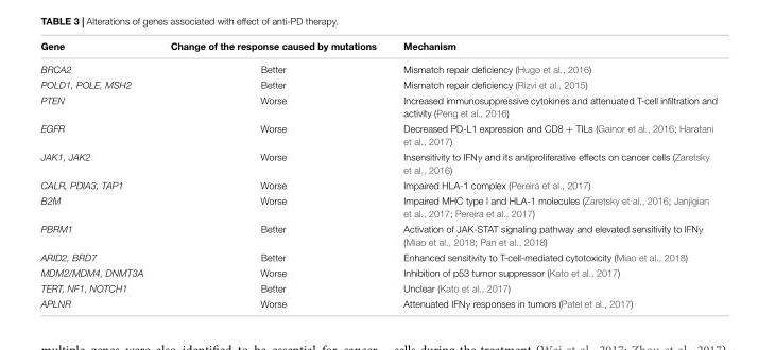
<table><thead><tr><td>Gene</td><td>Change of the response caused by mutations</td><td>Mechanism</td></tr></thead><tbody><tr><td>BRCA2</td><td>Better</td><td>Mismatch repair deficiency (Hugo et al., 2016)</td></tr><tr><td>POLD1, POLE, MSH2</td><td>Better</td><td>Mismatch repair deficiency (Rizvi et al., 2015)</td></tr><tr><td>PTEN</td><td>Worse</td><td>Increased immunosuppressive cytokines and attenuated T-cell infiltration and activity (Peng et al., 2016)</td></tr><tr><td>EGFR</td><td>Worse</td><td>Decreased PD-L1 expression and CD8 + TILs (Gainor et al., 2016; Haratani et al., 2017)</td></tr><tr><td>JAK1, JAK2</td><td>Worse</td><td>Insensitivity to IFNγ and its antiproliferative effects on cancer cells (Zaretsky et al., 2016)</td></tr><tr><td>CALR, PDIA3, TAP1</td><td>Worse</td><td>Impaired HLA-1 complex (Pereira et al., 2017)</td></tr><tr><td>B2M</td><td>Worse</td><td>Impaired MHC type I and HLA-1 molecules (Zaretsky et al., 2016; Janjigian et al., 2017; Pereira et al., 2017)</td></tr><tr><td>PBRM1</td><td>Better</td><td>Activation of JAK-STAT signaling pathway and elevated sensitivity to IFNγ (Miao et al., 2018; Pan et al., 2018)</td></tr><tr><td>ARID2, BRD7</td><td>Better</td><td>Enhanced sensitivity to T-cell-mediated cytotoxicity (Miao et al., 2018)</td></tr><tr><td>MDM2/MDM4, DNMT3A</td><td>Worse</td><td>Inhibition of p53 tumor suppressor (Kato et al., 2017)</td></tr><tr><td>TERT, NF1, NOTCH1</td><td>Better</td><td>Unclear (Kato et al., 2017)</td></tr><tr><td>APLNR</td><td>Worse</td><td>Attenuated IFNγ responses in tumors (Patel et al., 2017)</td></tr></tbody></table>